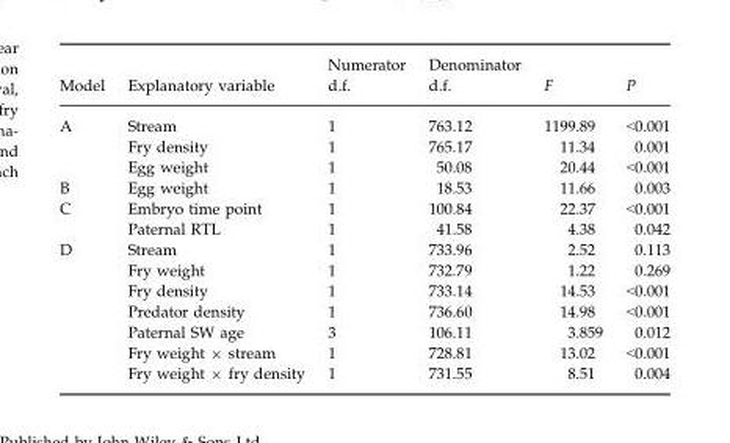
<table><thead><tr><td>Model</td><td>Explanatory variable</td><td>Numerator d.f.</td><td>Denominator d.f.</td><td>F</td><td>P</td></tr></thead><tbody><tr><td rowspan="3">A</td><td>Stream</td><td>1</td><td>763.12</td><td>1199.89</td><td>&lt;0.001</td></tr><tr><td>Fry density</td><td>1</td><td>765.17</td><td>11.34</td><td>0.001</td></tr><tr><td>Egg weight</td><td>1</td><td>50.08</td><td>20.44</td><td>&lt;0.001</td></tr><tr><td>B</td><td>Egg weight</td><td>1</td><td>18.53</td><td>11.66</td><td>0.003</td></tr><tr><td rowspan="2">C</td><td>Embryo time point</td><td>1</td><td>100.84</td><td>22.37</td><td>&lt;0.001</td></tr><tr><td>Paternal RTL</td><td>1</td><td>41.58</td><td>4.38</td><td>0.042</td></tr><tr><td rowspan="7">D</td><td>Stream</td><td>1</td><td>733.96</td><td>2.52</td><td>0.113</td></tr><tr><td>Fry weight</td><td>1</td><td>732.79</td><td>1.22</td><td>0.269</td></tr><tr><td>Fry density</td><td>1</td><td>733.14</td><td>14.53</td><td>&lt;0.001</td></tr><tr><td>Predator density</td><td>1</td><td>736.60</td><td>14.98</td><td>&lt;0.001</td></tr><tr><td>Paternal SW age</td><td>3</td><td>106.11</td><td>3.859</td><td>0.012</td></tr><tr><td>Fry weight × stream</td><td>1</td><td>728.81</td><td>13.02</td><td>&lt;0.001</td></tr><tr><td>Fry weight × fry density</td><td>1</td><td>731.55</td><td>8.51</td><td>0.004</td></tr></tbody></table>